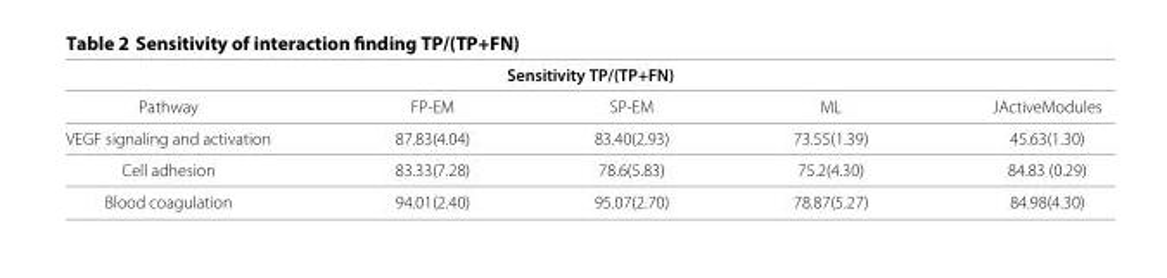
<table><thead><tr><td colspan="5">Sensitivity TP/(TP+FN)</td></tr><tr><td>Pathway</td><td>FP-EM</td><td>SP-EM</td><td>ML</td><td>JActiveModules</td></tr></thead><tbody><tr><td>VEGF signaling and activation</td><td>87.83(4.04)</td><td>83.40(2.93)</td><td>73.55(1.39)</td><td>45.63(1.30)</td></tr><tr><td>Cell adhesion</td><td>83.33(7.28)</td><td>78.6(5.83)</td><td>75.2(4.30)</td><td>84.83 (0.29)</td></tr><tr><td>Blood coagulation</td><td>94.01(2.40)</td><td>95.07(2.70)</td><td>78.87(5.27)</td><td>84.98(4.30)</td></tr></tbody></table>